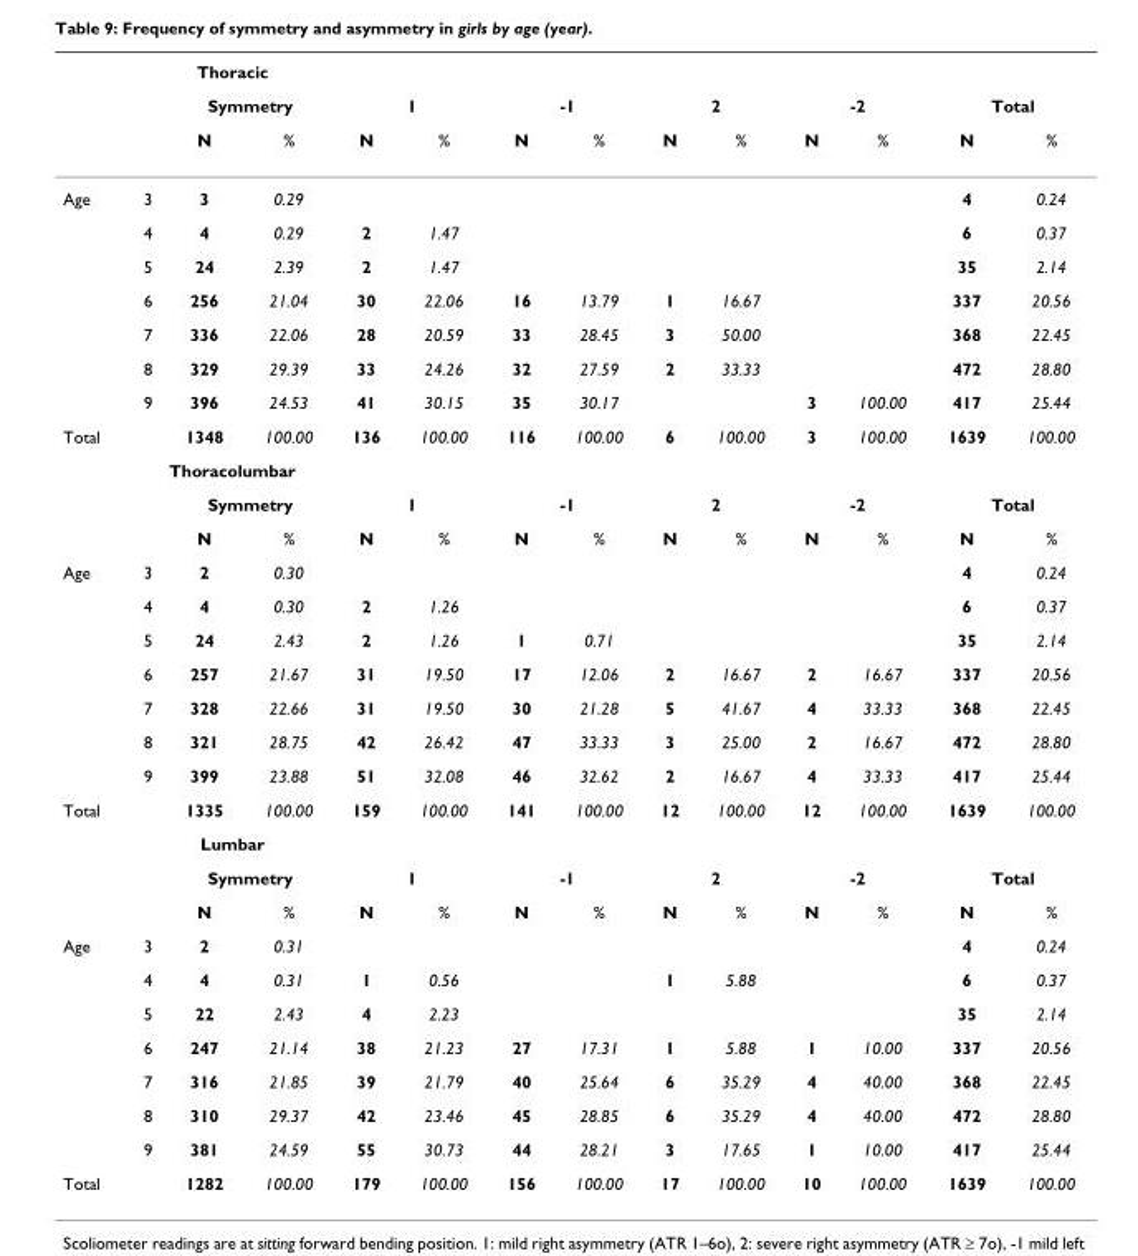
<table><thead><tr><td rowspan="3"></td><td colspan="3">Thoracic</td><td></td><td></td><td></td><td></td><td></td><td></td><td></td><td></td><td></td><td></td></tr><tr><td rowspan="2"></td><td colspan="2">Symmetry</td><td colspan="2">1</td><td colspan="2">-1</td><td colspan="2">2</td><td colspan="2">-2</td><td colspan="2">Total</td></tr><tr><td>N</td><td>%</td><td>N</td><td>%</td><td>N</td><td>%</td><td>N</td><td>%</td><td>N</td><td>%</td><td>N</td><td>%</td></tr></thead><tbody><tr><td rowspan="7">Age</td><td>3</td><td>3</td><td>0.29</td><td></td><td></td><td></td><td></td><td></td><td></td><td></td><td></td><td>4</td><td>0.24</td></tr><tr><td>4</td><td>4</td><td>0.29</td><td>2</td><td>1.47</td><td></td><td></td><td></td><td></td><td></td><td></td><td>6</td><td>0.37</td></tr><tr><td>5</td><td>24</td><td>2.39</td><td>2</td><td>1.47</td><td></td><td></td><td></td><td></td><td></td><td></td><td>35</td><td>2.14</td></tr><tr><td>6</td><td>256</td><td>21.04</td><td>30</td><td>22.06</td><td>16</td><td>13.79</td><td>1</td><td>16.67</td><td></td><td></td><td>337</td><td>20.56</td></tr><tr><td>7</td><td>336</td><td>22.06</td><td>28</td><td>20.59</td><td>33</td><td>28.45</td><td>3</td><td>50.00</td><td></td><td></td><td>368</td><td>22.45</td></tr><tr><td>8</td><td>329</td><td>29.39</td><td>33</td><td>24.26</td><td>32</td><td>27.59</td><td>2</td><td>33.33</td><td></td><td></td><td>472</td><td>28.80</td></tr><tr><td>9</td><td>396</td><td>24.53</td><td>41</td><td>30.15</td><td>35</td><td>30.17</td><td></td><td></td><td>3</td><td>100.00</td><td>417</td><td>25.44</td></tr><tr><td rowspan="4">Total</td><td></td><td>1348</td><td>100.00</td><td>136</td><td>100.00</td><td>116</td><td>100.00</td><td>6</td><td>100.00</td><td>3</td><td>100.00</td><td>1639</td><td>100.00</td></tr><tr><td colspan="3">Thoracolumbar</td><td></td><td></td><td></td><td></td><td></td><td></td><td></td><td></td><td></td><td></td></tr><tr><td></td><td colspan="2">Symmetry</td><td colspan="2">1</td><td colspan="2">-1</td><td colspan="2">2</td><td colspan="2">-2</td><td colspan="2">Total</td></tr><tr><td></td><td>N</td><td>%</td><td>N</td><td>%</td><td>N</td><td>%</td><td>N</td><td>%</td><td>N</td><td>%</td><td>N</td><td>%</td></tr><tr><td rowspan="7">Age</td><td>3</td><td>2</td><td>0.30</td><td></td><td></td><td></td><td></td><td></td><td></td><td></td><td></td><td>4</td><td>0.24</td></tr><tr><td>4</td><td>4</td><td>0.30</td><td>2</td><td>1.26</td><td></td><td></td><td></td><td></td><td></td><td></td><td>6</td><td>0.37</td></tr><tr><td>5</td><td>24</td><td>2.43</td><td>2</td><td>1.26</td><td>1</td><td>0.71</td><td></td><td></td><td></td><td></td><td>35</td><td>2.14</td></tr><tr><td>6</td><td>257</td><td>21.67</td><td>31</td><td>19.50</td><td>17</td><td>12.06</td><td>2</td><td>16.67</td><td>2</td><td>16.67</td><td>337</td><td>20.56</td></tr><tr><td>7</td><td>328</td><td>22.66</td><td>31</td><td>19.50</td><td>30</td><td>21.28</td><td>5</td><td>41.67</td><td>4</td><td>33.33</td><td>368</td><td>22.45</td></tr><tr><td>8</td><td>321</td><td>28.75</td><td>42</td><td>26.42</td><td>47</td><td>33.33</td><td>3</td><td>25.00</td><td>2</td><td>16.67</td><td>472</td><td>28.80</td></tr><tr><td>9</td><td>399</td><td>23.88</td><td>51</td><td>32.08</td><td>46</td><td>32.62</td><td>2</td><td>16.67</td><td>4</td><td>33.33</td><td>417</td><td>25.44</td></tr><tr><td rowspan="4">Total</td><td></td><td>1335</td><td>100.00</td><td>159</td><td>100.00</td><td>141</td><td>100.00</td><td>12</td><td>100.00</td><td>12</td><td>100.00</td><td>1639</td><td>100.00</td></tr><tr><td colspan="3">Lumbar</td><td></td><td></td><td></td><td></td><td></td><td></td><td></td><td></td><td></td><td></td></tr><tr><td></td><td colspan="2">Symmetry</td><td colspan="2">1</td><td colspan="2">-1</td><td colspan="2">2</td><td colspan="2">-2</td><td colspan="2">Total</td></tr><tr><td></td><td>N</td><td>%</td><td>N</td><td>%</td><td>N</td><td>%</td><td>N</td><td>%</td><td>N</td><td>%</td><td>N</td><td>%</td></tr><tr><td rowspan="7">Age</td><td>3</td><td>2</td><td>0.31</td><td></td><td></td><td></td><td></td><td></td><td></td><td></td><td></td><td>4</td><td>0.24</td></tr><tr><td>4</td><td>4</td><td>0.31</td><td>1</td><td>0.56</td><td></td><td></td><td>1</td><td>5.88</td><td></td><td></td><td>6</td><td>0.37</td></tr><tr><td>5</td><td>22</td><td>2.43</td><td>4</td><td>2.23</td><td></td><td></td><td></td><td></td><td></td><td></td><td>35</td><td>2.14</td></tr><tr><td>6</td><td>247</td><td>21.14</td><td>38</td><td>21.23</td><td>27</td><td>17.31</td><td>1</td><td>5.88</td><td>1</td><td>10.00</td><td>337</td><td>20.56</td></tr><tr><td>7</td><td>316</td><td>21.85</td><td>39</td><td>21.79</td><td>40</td><td>25.64</td><td>6</td><td>35.29</td><td>4</td><td>40.00</td><td>368</td><td>22.45</td></tr><tr><td>8</td><td>310</td><td>29.37</td><td>42</td><td>23.46</td><td>45</td><td>28.85</td><td>6</td><td>35.29</td><td>4</td><td>40.00</td><td>472</td><td>28.80</td></tr><tr><td>9</td><td>381</td><td>24.59</td><td>55</td><td>30.73</td><td>44</td><td>28.21</td><td>3</td><td>17.65</td><td>1</td><td>10.00</td><td>417</td><td>25.44</td></tr><tr><td>Total</td><td></td><td>1282</td><td>100.00</td><td>179</td><td>100.00</td><td>156</td><td>100.00</td><td>17</td><td>100.00</td><td>10</td><td>100.00</td><td>1639</td><td>100.00</td></tr></tbody></table>